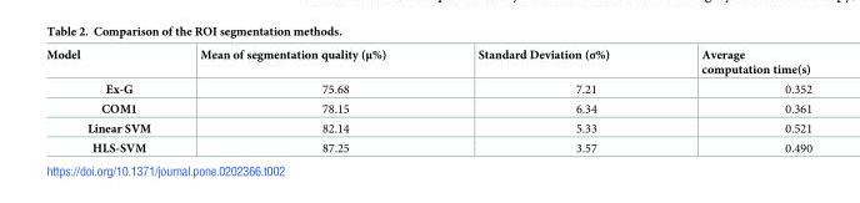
<table><thead><tr><td>Model</td><td>Mean of segmentation quality (μ%)</td><td>Standard Deviation (σ%)</td><td>Average computation time(s)</td></tr></thead><tbody><tr><td>Ex-G</td><td>75.68</td><td>7.21</td><td>0.352</td></tr><tr><td>COM1</td><td>78.15</td><td>6.34</td><td>0.361</td></tr><tr><td>Linear SVM</td><td>82.14</td><td>5.33</td><td>0.521</td></tr><tr><td>HLS-SVM</td><td>87.25</td><td>3.57</td><td>0.490</td></tr></tbody></table>